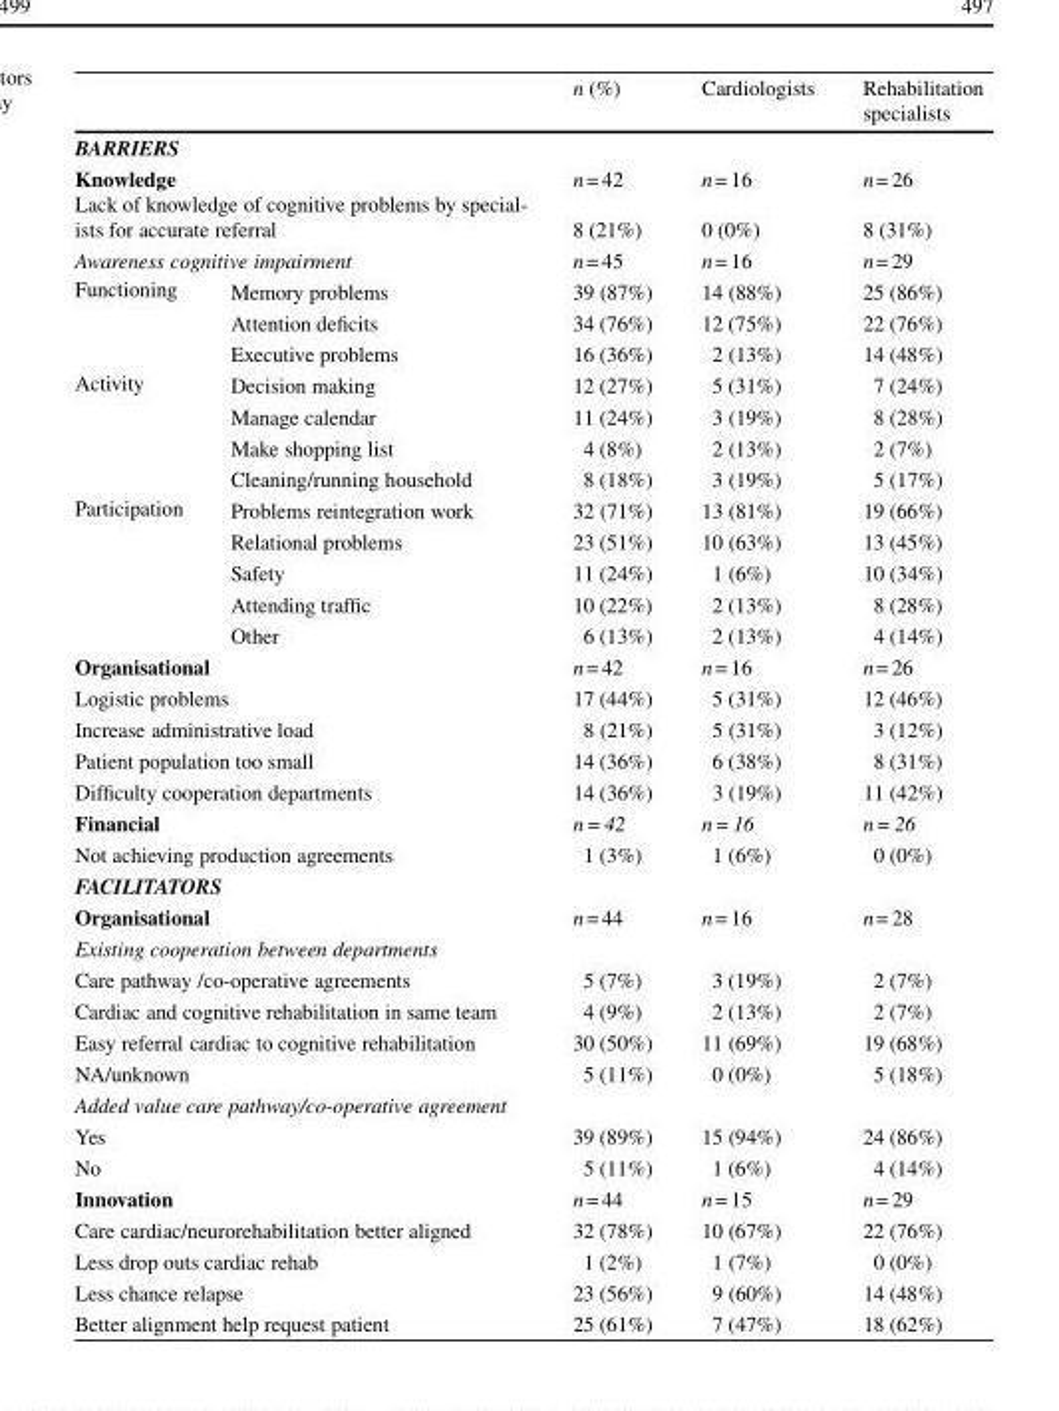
<table><thead><tr><td></td><td></td><td>n (%)</td><td>Cardiologists</td><td>Rehabilitation specialists</td></tr></thead><tbody><tr><td colspan="5">BARRIERS</td></tr><tr><td colspan="2">Knowledge Lack of knowledge of cognitive problems by special- ists for accurate referral</td><td>n= 42 8 (21%)</td><td>n= 16 0 (0%)</td><td>n= 26 8 (31%)</td></tr><tr><td colspan="2">Awareness cognitive impairment</td><td>n= 45</td><td>n= 16</td><td>n= 29</td></tr><tr><td rowspan="3">Functioning</td><td>Memory problems</td><td>39 (87%)</td><td>14 (88%)</td><td>25 (86%)</td></tr><tr><td>Attention deficits</td><td>34 (76%)</td><td>12 (75%)</td><td>22 (76%)</td></tr><tr><td>Executive problems</td><td>16 (36%)</td><td>2 (13%)</td><td>14 (48%)</td></tr><tr><td rowspan="4">Activity</td><td>Decision making</td><td>12 (27%)</td><td>5 (31%)</td><td>7 (24%)</td></tr><tr><td>Manage calendar</td><td>11 (24%)</td><td>3 (19%)</td><td>8 (28%)</td></tr><tr><td>Make shopping list</td><td>4 (8%)</td><td>2 (13%)</td><td>2 (7%)</td></tr><tr><td>Cleaning/running household</td><td>8 (18%)</td><td>3 (19%)</td><td>5 (17%)</td></tr><tr><td rowspan="5">Participation</td><td>Problems reintegration work</td><td>32 (71%)</td><td>13 (81%)</td><td>19 (66%)</td></tr><tr><td>Relational problems</td><td>23 (51%)</td><td>10 (63%)</td><td>13 (45%)</td></tr><tr><td>Safety</td><td>11 (24%)</td><td>1 (6%)</td><td>10 (34%)</td></tr><tr><td>Attending traffic</td><td>10 (22%)</td><td>2 (13%)</td><td>8 (28%)</td></tr><tr><td>Other</td><td>6 (13%)</td><td>2 (13%)</td><td>4 (14%)</td></tr><tr><td colspan="2">Organisational</td><td>n= 42</td><td>n= 16</td><td>n= 26</td></tr><tr><td colspan="2">Logistic problems</td><td>17 (44%)</td><td>5 (31%)</td><td>12 (46%)</td></tr><tr><td colspan="2">Increase administrative load</td><td>8 (21%)</td><td>5 (31%)</td><td>3 (12%)</td></tr><tr><td colspan="2">Patient population too small</td><td>14 (36%)</td><td>6 (38%)</td><td>8 (31%)</td></tr><tr><td colspan="2">Difficulty cooperation departments</td><td>14 (36%)</td><td>3 (19%)</td><td>11 (42%)</td></tr><tr><td colspan="2">Financial</td><td>n= 42</td><td>n= 16</td><td>n= 26</td></tr><tr><td colspan="2">Not achieving production agreements</td><td>1 (3%)</td><td>1 (6%)</td><td>0 (0%)</td></tr><tr><td colspan="5">FACILITATORS</td></tr><tr><td colspan="2">Organisational</td><td>n= 44</td><td>n= 16</td><td>n= 28</td></tr><tr><td colspan="5">Existing cooperation between departments</td></tr><tr><td colspan="2">Care pathway /co-operative agreements</td><td>5 (7%)</td><td>3 (19%)</td><td>2 (7%)</td></tr><tr><td colspan="2">Cardiac and cognitive rehabilitation in same team</td><td>4 (9%)</td><td>2 (13%)</td><td>2 (7%)</td></tr><tr><td colspan="2">Easy referral cardiac to cognitive rehabilitation</td><td>30 (50%)</td><td>11 (69%)</td><td>19 (68%)</td></tr><tr><td colspan="2">NA/unknown</td><td>5 (11%)</td><td>0 (0%)</td><td>5 (18%)</td></tr><tr><td colspan="5">Added value care pathway/co-operative agreement</td></tr><tr><td colspan="2">Yes</td><td>39 (89%)</td><td>15 (94%)</td><td>24 (86%)</td></tr><tr><td colspan="2">No</td><td>5 (11%)</td><td>1 (6%)</td><td>4 (14%)</td></tr><tr><td colspan="2">Innovation</td><td>n= 44</td><td>n= 15</td><td>n= 29</td></tr><tr><td colspan="2">Care cardiac/neurorehabilitation better aligned</td><td>32 (78%)</td><td>10 (67%)</td><td>22 (76%)</td></tr><tr><td colspan="2">Less drop outs cardiac rehab</td><td>1 (2%)</td><td>1 (7%)</td><td>0 (0%)</td></tr><tr><td colspan="2">Less chance relapse</td><td>23 (56%)</td><td>9 (60%)</td><td>14 (48%)</td></tr><tr><td colspan="2">Better alignment help request patient</td><td>25 (61%)</td><td>7 (47%)</td><td>18 (62%)</td></tr></tbody></table>